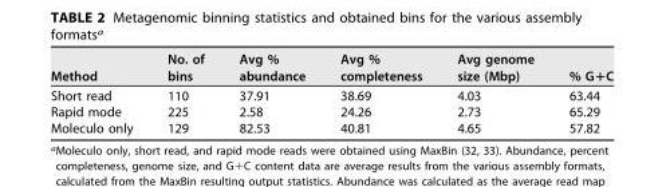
<table><thead><tr><td>Method</td><td>No. of bins</td><td>Avg % abundance</td><td>Avg % completeness</td><td>Avg genome size (Mbp)</td><td>% G+C</td></tr></thead><tbody><tr><td>Short read</td><td>110</td><td>37.91</td><td>38.69</td><td>4.03</td><td>63.44</td></tr><tr><td>Rapid mode</td><td>225</td><td>2.58</td><td>24.26</td><td>2.73</td><td>65.29</td></tr><tr><td>Moleculo only</td><td>129</td><td>82.53</td><td>40.81</td><td>4.65</td><td>57.82</td></tr></tbody></table>